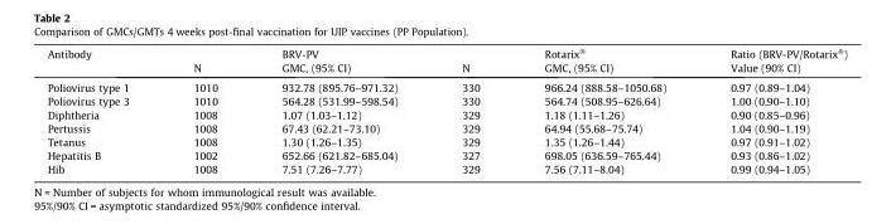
<table><thead><tr><td rowspan="2">Antibody</td><td rowspan="2">N</td><td rowspan="2">BRV-PV GMC, (95% CI)</td><td rowspan="2">N</td><td rowspan="2">Rotarix® GMC, (95% CI)</td><td rowspan="2">Ratio (BRV-PV/Rotarix®) Value (90% CI)</td></tr><tr></tr></thead><tbody><tr><td>Poliovirus type 1</td><td>1010</td><td>932.78 (895.76–971.32)</td><td>330</td><td>966.24 (888.58–1050.68)</td><td>0.97 (0.89–1.04)</td></tr><tr><td>Poliovirus type 3</td><td>1010</td><td>564.28 (531.99–598.54)</td><td>330</td><td>564.74 (508.95–626.64)</td><td>1.00 (0.90–1.10)</td></tr><tr><td>Diphtheria</td><td>1008</td><td>1.07 (1.03–1.12)</td><td>329</td><td>1.18 (1.11–1.26)</td><td>0.90 (0.85–0.96)</td></tr><tr><td>Pertussis</td><td>1008</td><td>67.43 (62.21–73.10)</td><td>329</td><td>64.94 (55.68–75.74)</td><td>1.04 (0.90–1.19)</td></tr><tr><td>Tetanus</td><td>1008</td><td>1.30 (1.26–1.35)</td><td>329</td><td>1.35 (1.26–1.44)</td><td>0.97 (0.91–1.02)</td></tr><tr><td>Hepatitis B</td><td>1002</td><td>652.66 (621.82–685.04)</td><td>327</td><td>698.05 (636.59–765.44)</td><td>0.93 (0.86–1.02)</td></tr><tr><td>Hib</td><td>1008</td><td>7.51 (7.26–7.77)</td><td>329</td><td>7.56 (7.11–8.04)</td><td>0.99 (0.94–1.05)</td></tr></tbody></table>